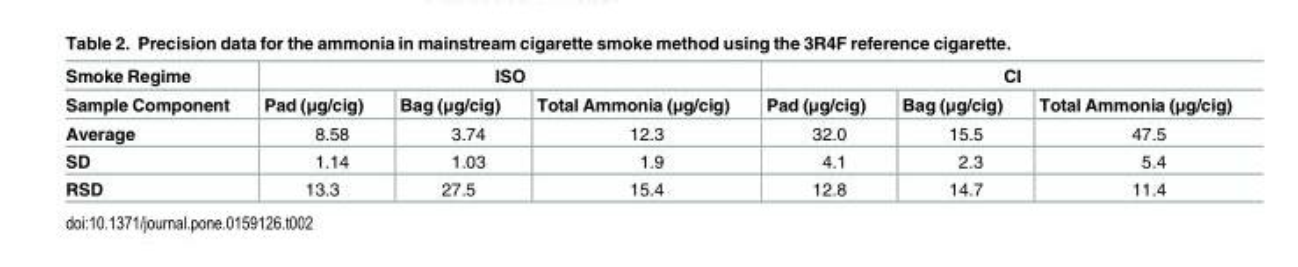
<table><thead><tr><td rowspan="2">Smoke Regime Sample Component</td><td colspan="3">ISO</td><td colspan="3">CI</td></tr><tr><td>Pad (μg/cig)</td><td>Bag (μg/cig)</td><td>Total Ammonia (μg/cig)</td><td>Pad (μg/cig)</td><td>Bag (μg/cig)</td><td>Total Ammonia (μg/cig)</td></tr></thead><tbody><tr><td>Average</td><td>8.58</td><td>3.74</td><td>12.3</td><td>32.0</td><td>15.5</td><td>47.5</td></tr><tr><td>SD</td><td>1.14</td><td>1.03</td><td>1.9</td><td>4.1</td><td>2.3</td><td>5.4</td></tr><tr><td>RSD</td><td>13.3</td><td>27.5</td><td>15.4</td><td>12.8</td><td>14.7</td><td>11.4</td></tr></tbody></table>